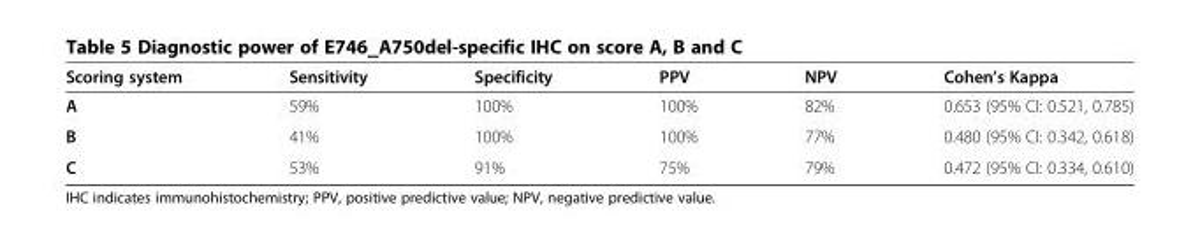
<table><thead><tr><td>Scoring system</td><td>Sensitivity</td><td>Specificity</td><td>PPV</td><td>NPV</td><td>Cohen’s Kappa</td></tr></thead><tbody><tr><td>A</td><td>59%</td><td>100%</td><td>100%</td><td>82%</td><td>0.653 (95% CI: 0.521, 0.785)</td></tr><tr><td>B</td><td>41%</td><td>100%</td><td>100%</td><td>77%</td><td>0.480 (95% CI: 0.342, 0.618)</td></tr><tr><td>C</td><td>53%</td><td>91%</td><td>75%</td><td>79%</td><td>0.472 (95% CI: 0.334, 0.610)</td></tr></tbody></table>